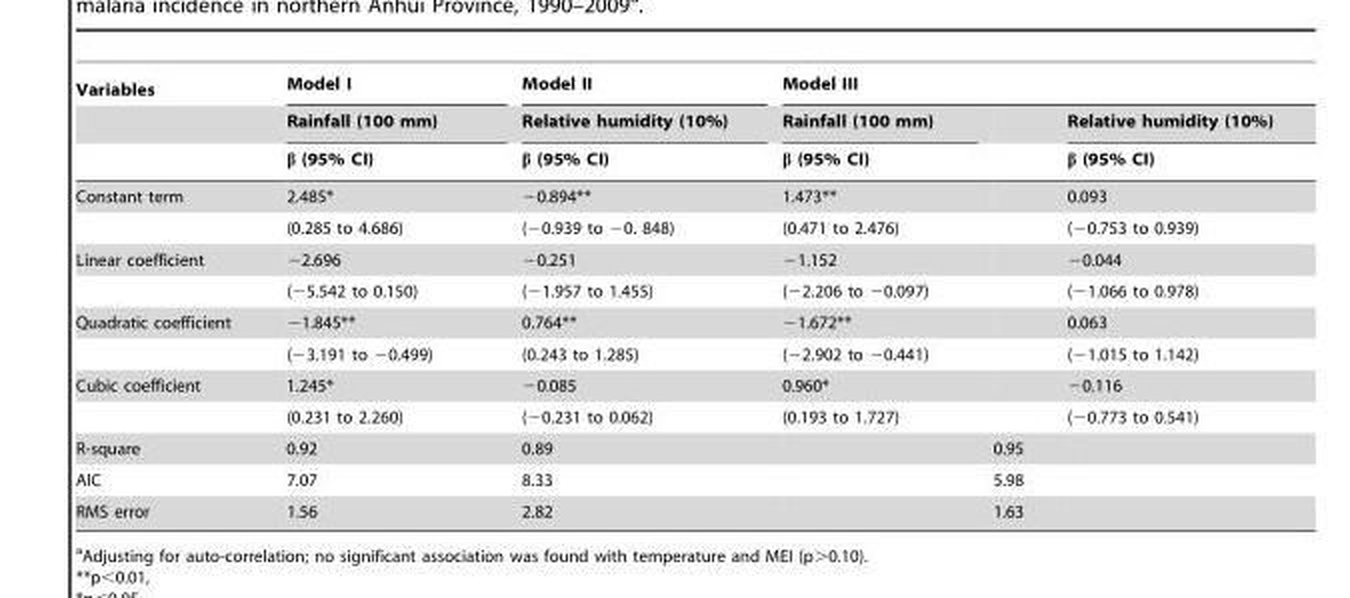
<table><thead><tr><td rowspan="3">Variables</td><td rowspan="3">Model I Rainfall (100 mm) β (95% CI)</td><td rowspan="3">Model II Relative humidity (10%) β (95% CI)</td><td colspan="3">Model III</td></tr><tr><td rowspan="2">Rainfall (100 mm) β (95% CI)</td><td rowspan="2"></td><td rowspan="2">Relative humidity (10%) β (95% CI)</td></tr><tr></tr></thead><tbody><tr><td rowspan="2">Constant term</td><td>2.485*</td><td>−0.894**</td><td>1.473**</td><td></td><td>0.093</td></tr><tr><td>(0.285 to 4.686)</td><td>(−0.939 to −0. 848)</td><td>(0.471 to 2.476)</td><td></td><td>(−0.753 to 0.939)</td></tr><tr><td rowspan="2">Linear coefficient</td><td>−2.696</td><td>−0.251</td><td>−1.152</td><td></td><td>−0.044</td></tr><tr><td>(−5.542 to 0.150)</td><td>(−1.957 to 1.455)</td><td>(−2.206 to −0.097)</td><td></td><td>(−1.066 to 0.978)</td></tr><tr><td rowspan="2">Quadratic coefficient</td><td>−1.845**</td><td>0.764**</td><td>−1.672**</td><td></td><td>0.063</td></tr><tr><td>(−3.191 to −0.499)</td><td>(0.243 to 1.285)</td><td>(−2.902 to −0.441)</td><td></td><td>(−1.015 to 1.142)</td></tr><tr><td rowspan="2">Cubic coefficient</td><td>1.245*</td><td>−0.085</td><td>0.960*</td><td></td><td>−0.116</td></tr><tr><td>(0.231 to 2.260)</td><td>(−0.231 to 0.062)</td><td>(0.193 to 1.727)</td><td></td><td>(−0.773 to 0.541)</td></tr><tr><td>R-square</td><td>0.92</td><td>0.89</td><td></td><td>0.95</td><td></td></tr><tr><td>AIC</td><td>7.07</td><td>8.33</td><td></td><td>5.98</td><td></td></tr><tr><td>RMS error</td><td>1.56</td><td>2.82</td><td></td><td>1.63</td><td></td></tr></tbody></table>